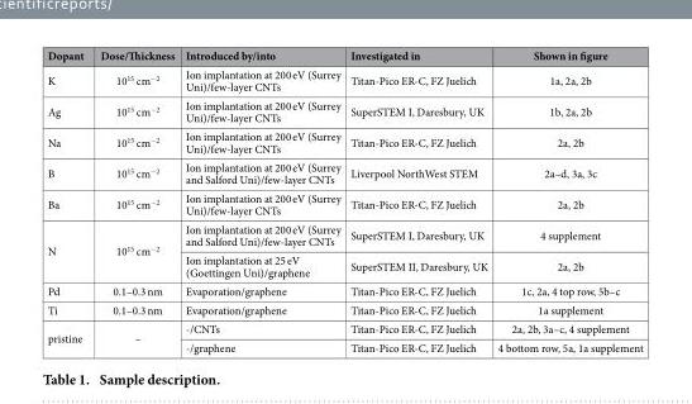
<table><thead><tr><td>Dopant</td><td>Dose/Thickness</td><td>Introduced by/into</td><td>Investigated in</td><td>Shown in figure</td></tr></thead><tbody><tr><td>K</td><td>10<sup>15</sup> cm<sup>−2</sup></td><td>Ion implantation at 200 eV (Surrey Uni)/few-layer CNTs</td><td>Titan-Pico ER-C, FZ Juelich</td><td>1a, 2a, 2b</td></tr><tr><td>Ag</td><td>10<sup>15</sup> cm<sup>−2</sup></td><td>Ion implantation at 200 eV (Surrey Uni)/few-layer CNTs</td><td>SuperSTEM I, Daresbury, UK</td><td>1b, 2a, 2b</td></tr><tr><td>Na</td><td>10<sup>15</sup> cm<sup>−2</sup></td><td>Ion implantation at 200 eV (Surrey Uni)/few-layer CNTs</td><td>Titan-Pico ER-C, FZ Juelich</td><td>2a, 2b</td></tr><tr><td>B</td><td>10<sup>15</sup> cm<sup>−2</sup></td><td>Ion implantation at 200 eV (Surrey and Salford Uni)/few-layer CNTs</td><td>Liverpool NorthWest STEM</td><td>2a–d, 3a, 3c</td></tr><tr><td>Ba</td><td>10<sup>15</sup> cm<sup>−2</sup></td><td>Ion implantation at 200 eV (Surrey Uni)/few-layer CNTs</td><td>Titan-Pico ER-C, FZ Juelich</td><td>2a, 2b</td></tr><tr><td rowspan="2">N</td><td rowspan="2">10<sup>15</sup> cm<sup>−2</sup></td><td>Ion implantation at 200 eV (Surrey and Salford Uni)/few-layer CNTs</td><td>SuperSTEM I, Daresbury, UK</td><td>4 supplement</td></tr><tr><td>Ion implantation at 25 eV (Goettingen Uni)/graphene</td><td>SuperSTEM II, Daresbury, UK</td><td>2a, 2b</td></tr><tr><td>Pd</td><td>0.1–0.3 nm</td><td>Evaporation/graphene</td><td>Titan-Pico ER-C, FZ Juelich</td><td>1c, 2a, 4 top row, 5b–c</td></tr><tr><td>Ti</td><td>0.1–0.3 nm</td><td>Evaporation/graphene</td><td>Titan-Pico ER-C, FZ Juelich</td><td>1a supplement</td></tr><tr><td rowspan="2">pristine</td><td rowspan="2">–</td><td>-/CNTs</td><td>Titan-Pico ER-C, FZ Juelich</td><td>2a, 2b, 3a–c, 4 supplement</td></tr><tr><td>-/graphene</td><td>Titan-Pico ER-C, FZ Juelich</td><td>4 bottom row, 5a, 1a supplement</td></tr></tbody></table>